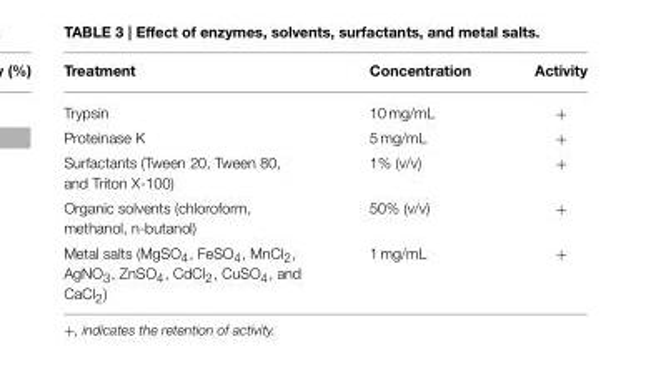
<table><thead><tr><td>Treatment</td><td>Concentration</td><td>Activity</td></tr></thead><tbody><tr><td>Trypsin</td><td>10 mg/mL</td><td>+</td></tr><tr><td>Proteinase K</td><td>5 mg/mL</td><td>+</td></tr><tr><td>Surfactants (Tween 20, Tween 80, and Triton X-100)</td><td>1% (v/v)</td><td>+</td></tr><tr><td>Organic solvents (chloroform, methanol, n-butanol)</td><td>50% (v/v)</td><td>+</td></tr><tr><td>Metal salts (MgSO<sub>4</sub>, FeSO<sub>4</sub>, MnCl<sub>2</sub>, AgNO<sub>3</sub>, ZnSO<sub>4</sub>, CdCl<sub>2</sub>, CuSO<sub>4</sub>, and CaCl<sub>2</sub>)</td><td>1 mg/mL</td><td>+</td></tr></tbody></table>